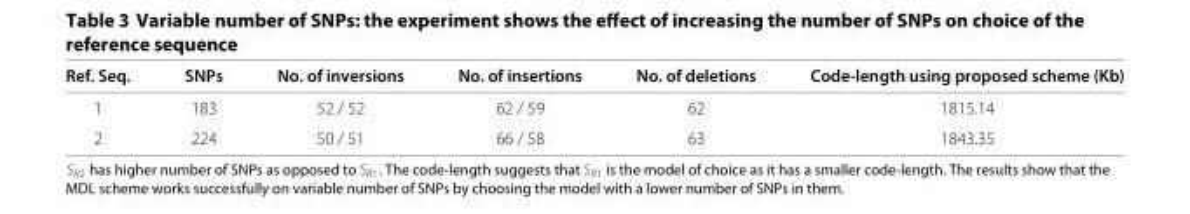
<table><thead><tr><td>Ref. Seq.</td><td>SNPs</td><td>No. of inversions</td><td>No. of insertions</td><td>No. of deletions</td><td>Code-length using proposed scheme (Kb)</td></tr></thead><tbody><tr><td>1</td><td>183</td><td>52 / 52</td><td>62 / 59</td><td>62</td><td>1815.14</td></tr><tr><td>2</td><td>224</td><td>50 / 51</td><td>66 / 58</td><td>63</td><td>1843.35</td></tr></tbody></table>